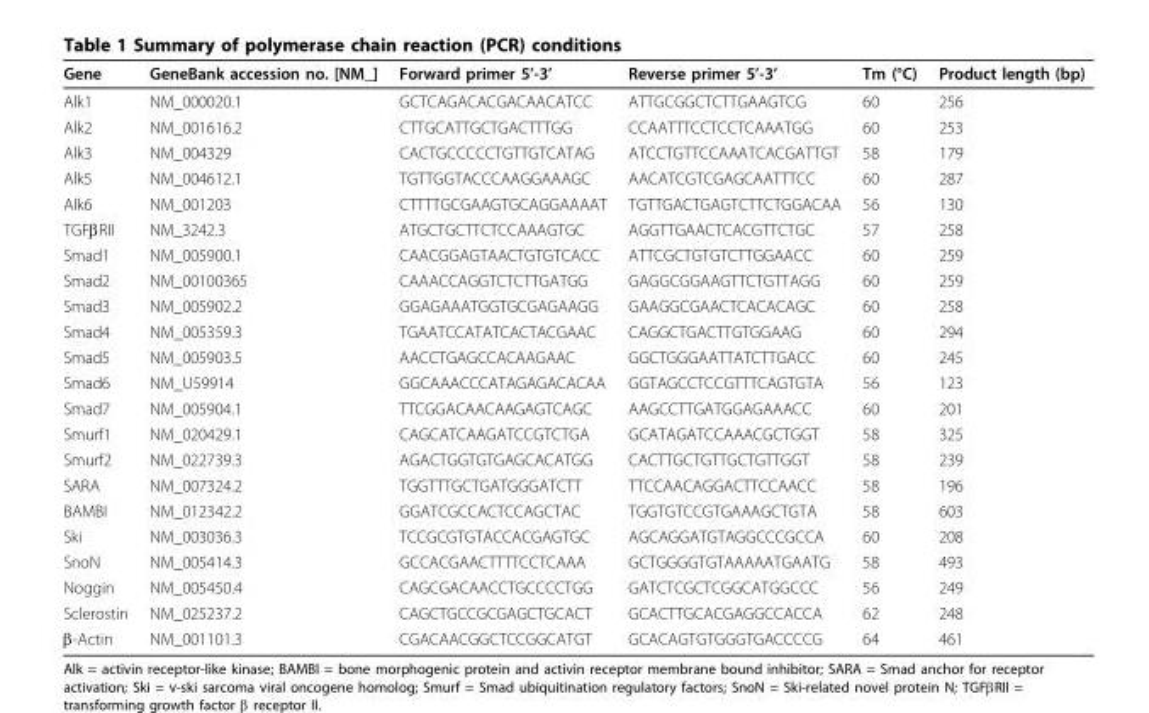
<table><thead><tr><td>Gene</td><td>GeneBank accession no. [NM_]</td><td>Forward primer 5’-3’</td><td>Reverse primer 5’-3’</td><td>Tm (°C)</td><td>Product length (bp)</td></tr></thead><tbody><tr><td>Alk1</td><td>NM_000020.1</td><td>GCTCAGACACGACAACATCC</td><td>ATTGCGGCTCTTGAAGTCG</td><td>60</td><td>256</td></tr><tr><td>Alk2</td><td>NM_001616.2</td><td>CTTGCATTGCTGACTTTGG</td><td>CCAATTTCCTCCTCAAATGG</td><td>60</td><td>253</td></tr><tr><td>Alk3</td><td>NM_004329</td><td>CACTGCCCCCTGTTGTCATAG</td><td>ATCCTGTTCCAAATCACGATTGT</td><td>58</td><td>179</td></tr><tr><td>Alk5</td><td>NM_004612.1</td><td>TGTTGGTACCCAAGGAAAGC</td><td>AACATCGTCGAGCAATTTCC</td><td>60</td><td>287</td></tr><tr><td>Alk6</td><td>NM_001203</td><td>CTTTTGCGAAGTGCAGGAAAAT</td><td>TGTTGACTGAGTCTTCTGGACAA</td><td>56</td><td>130</td></tr><tr><td>TGFβRII</td><td>NM_3242.3</td><td>ATGCTGCTTCTCCAAAGTGC</td><td>AGGTTGAACTCACGTTCTGC</td><td>57</td><td>258</td></tr><tr><td>Smad1</td><td>NM_005900.1</td><td>CAACGGAGTAACTGTGTCACC</td><td>ATTCGCTGTGTCTTGGAACC</td><td>60</td><td>259</td></tr><tr><td>Smad2</td><td>NM_00100365</td><td>CAAACCAGGTCTCTTGATGG</td><td>GAGGCGGAAGTTCTGTTAGG</td><td>60</td><td>259</td></tr><tr><td>Smad3</td><td>NM_005902.2</td><td>GGAGAAATGGTGCGAGAAGG</td><td>GAAGGCGAACTCACACAGC</td><td>60</td><td>258</td></tr><tr><td>Smad4</td><td>NM_005359.3</td><td>TGAATCCATATCACTACGAAC</td><td>CAGGCTGACTTGTGGAAG</td><td>60</td><td>294</td></tr><tr><td>Smad5</td><td>NM_005903.5</td><td>AACCTGAGCCACAAGAAC</td><td>GGCTGGGAATTATCTTGACC</td><td>60</td><td>245</td></tr><tr><td>Smad6</td><td>NM_U59914</td><td>GGCAAACCCATAGAGACACAA</td><td>GGTAGCCTCCGTTTCAGTGTA</td><td>56</td><td>123</td></tr><tr><td>Smad7</td><td>NM_005904.1</td><td>TTCGGACAACAAGAGTCAGC</td><td>AAGCCTTGATGGAGAAACC</td><td>60</td><td>201</td></tr><tr><td>Smurf1</td><td>NM_020429.1</td><td>CAGCATCAAGATCCGTCTGA</td><td>GCATAGATCCAAACGCTGGT</td><td>58</td><td>325</td></tr><tr><td>Smurf2</td><td>NM_022739.3</td><td>AGACTGGTGTGAGCACATGG</td><td>CACTTGCTGTTGCTGTTGGT</td><td>58</td><td>239</td></tr><tr><td>SARA</td><td>NM_007324.2</td><td>TGGTTTGCTGATGGGATCTT</td><td>TTCCAACAGGACTTCCAACC</td><td>58</td><td>196</td></tr><tr><td>BAMBI</td><td>NM_012342.2</td><td>GGATCGCCACTCCAGCTAC</td><td>TGGTGTCCGTGAAAGCTGTA</td><td>58</td><td>603</td></tr><tr><td>Ski</td><td>NM_003036.3</td><td>TCCGCGTGTACCACGAGTGC</td><td>AGCAGGATGTAGGCCCGCCA</td><td>60</td><td>208</td></tr><tr><td>SnoN</td><td>NM_005414.3</td><td>GCCACGAACTTTTCCTCAAA</td><td>GCTGGGGTGTAAAAATGAATG</td><td>58</td><td>493</td></tr><tr><td>Noggin</td><td>NM_005450.4</td><td>CAGCGACAACCTGCCCCTGG</td><td>GATCTCGCTCGGCATGGCCC</td><td>56</td><td>249</td></tr><tr><td>Sclerostin</td><td>NM_025237.2</td><td>CAGCTGCCGCGAGCTGCACT</td><td>GCACTTGCACGAGGCCACCA</td><td>62</td><td>248</td></tr><tr><td>β-Actin</td><td>NM_001101.3</td><td>CGACAACGGCTCCGGCATGT</td><td>GCACAGTGTGGGTGACCCCG</td><td>64</td><td>461</td></tr></tbody></table>